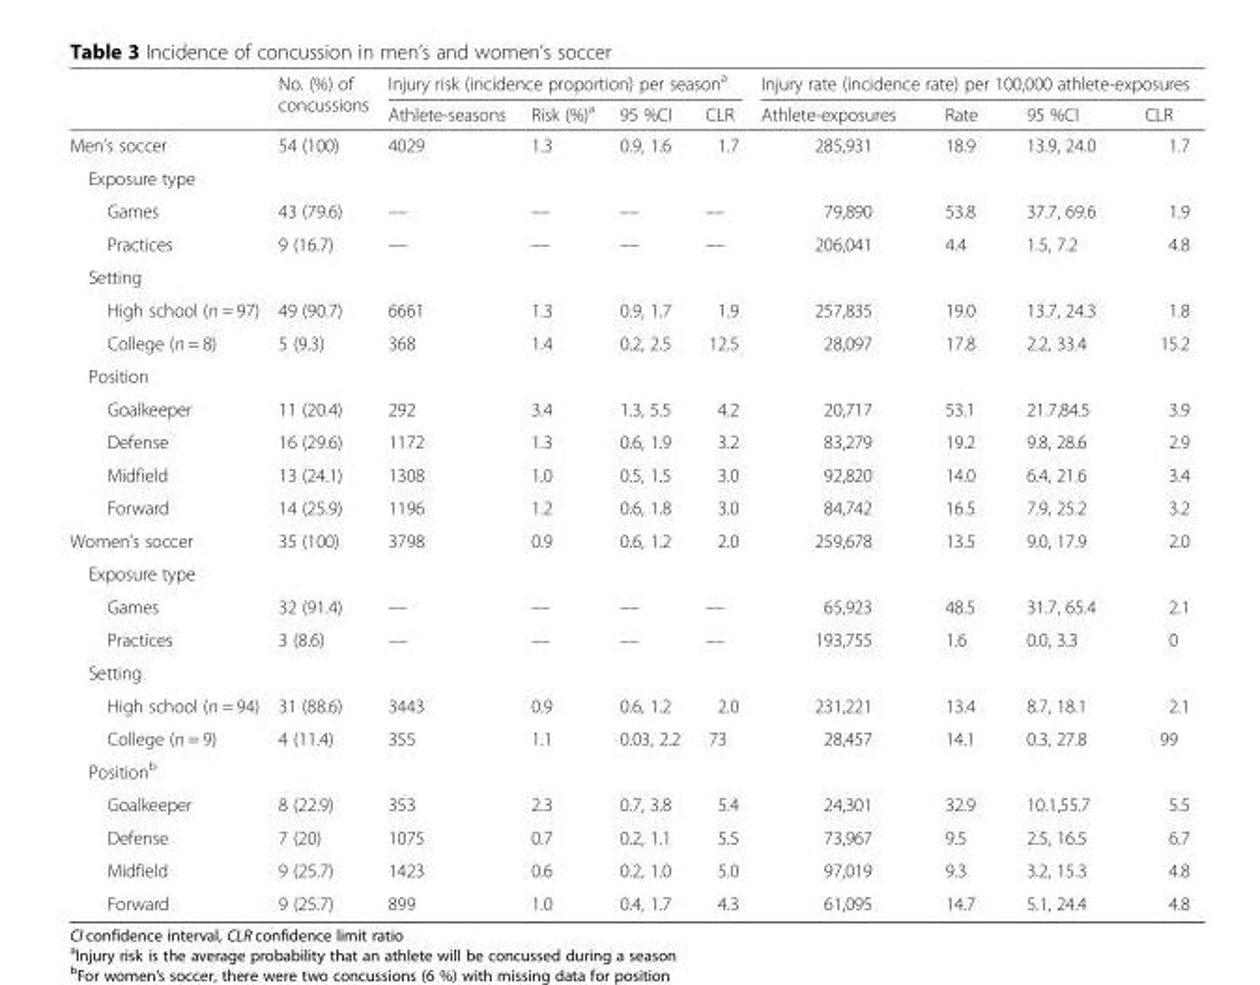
<table><thead><tr><td rowspan="2"></td><td rowspan="2">No. (%) of concussions</td><td colspan="4">Injury risk (incidence proportion) per season<sup>a</sup></td><td colspan="4">Injury rate (incidence rate) per 100,000 athlete-exposures</td></tr><tr><td>Athlete-seasons</td><td>Risk (%)<sup>a</sup></td><td>95 %CI</td><td>CLR</td><td>Athlete-exposures</td><td>Rate</td><td>95 %CI</td><td>CLR</td></tr></thead><tbody><tr><td>Men’s soccer</td><td>54 (100)</td><td>4029</td><td>1.3</td><td>0.9, 1.6</td><td>1.7</td><td>285,931</td><td>18.9</td><td>13.9, 24.0</td><td>1.7</td></tr><tr><td colspan="10">Exposure type</td></tr><tr><td>Games</td><td>43 (79.6)</td><td>––</td><td>––</td><td>––</td><td>––</td><td>79,890</td><td>53.8</td><td>37.7, 69.6</td><td>1.9</td></tr><tr><td>Practices</td><td>9 (16.7)</td><td>––</td><td>––</td><td>––</td><td>––</td><td>206,041</td><td>4.4</td><td>1.5, 7.2</td><td>4.8</td></tr><tr><td colspan="10">Setting</td></tr><tr><td>High school (n = 97)</td><td>49 (90.7)</td><td>6661</td><td>1.3</td><td>0.9, 1.7</td><td>1.9</td><td>257,835</td><td>19.0</td><td>13.7, 24.3</td><td>1.8</td></tr><tr><td>College (n = 8)</td><td>5 (9.3)</td><td>368</td><td>1.4</td><td>0.2, 2.5</td><td>12.5</td><td>28,097</td><td>17.8</td><td>2.2, 33.4</td><td>15.2</td></tr><tr><td colspan="10">Position</td></tr><tr><td>Goalkeeper</td><td>11 (20.4)</td><td>292</td><td>3.4</td><td>1.3, 5.5</td><td>4.2</td><td>20,717</td><td>53.1</td><td>21.7,84.5</td><td>3.9</td></tr><tr><td>Defense</td><td>16 (29.6)</td><td>1172</td><td>1.3</td><td>0.6, 1.9</td><td>3.2</td><td>83,279</td><td>19.2</td><td>9.8, 28.6</td><td>2.9</td></tr><tr><td>Midfield</td><td>13 (24.1)</td><td>1308</td><td>1.0</td><td>0.5, 1.5</td><td>3.0</td><td>92,820</td><td>14.0</td><td>6.4, 21.6</td><td>3.4</td></tr><tr><td>Forward</td><td>14 (25.9)</td><td>1196</td><td>1.2</td><td>0.6, 1.8</td><td>3.0</td><td>84,742</td><td>16.5</td><td>7.9, 25.2</td><td>3.2</td></tr><tr><td>Women’s soccer</td><td>35 (100)</td><td>3798</td><td>0.9</td><td>0.6, 1.2</td><td>2.0</td><td>259,678</td><td>13.5</td><td>9.0, 17.9</td><td>2.0</td></tr><tr><td colspan="10">Exposure type</td></tr><tr><td>Games</td><td>32 (91.4)</td><td>––</td><td>––</td><td>––</td><td>––</td><td>65,923</td><td>48.5</td><td>31.7, 65.4</td><td>2.1</td></tr><tr><td>Practices</td><td>3 (8.6)</td><td>––</td><td>––</td><td>––</td><td>––</td><td>193,755</td><td>1.6</td><td>0.0, 3.3</td><td>0</td></tr><tr><td colspan="10">Setting</td></tr><tr><td>High school (n = 94)</td><td>31 (88.6)</td><td>3443</td><td>0.9</td><td>0.6, 1.2</td><td>2.0</td><td>231,221</td><td>13.4</td><td>8.7, 18.1</td><td>2.1</td></tr><tr><td>College (n = 9)</td><td>4 (11.4)</td><td>355</td><td>1.1</td><td>0.03, 2.2</td><td>73</td><td>28,457</td><td>14.1</td><td>0.3, 27.8</td><td>99</td></tr><tr><td colspan="10">Position<sup>b</sup></td></tr><tr><td>Goalkeeper</td><td>8 (22.9)</td><td>353</td><td>2.3</td><td>0.7, 3.8</td><td>5.4</td><td>24,301</td><td>32.9</td><td>10.1,55.7</td><td>5.5</td></tr><tr><td>Defense</td><td>7 (20)</td><td>1075</td><td>0.7</td><td>0.2, 1.1</td><td>5.5</td><td>73,967</td><td>9.5</td><td>2.5, 16.5</td><td>6.7</td></tr><tr><td>Midfield</td><td>9 (25.7)</td><td>1423</td><td>0.6</td><td>0.2, 1.0</td><td>5.0</td><td>97,019</td><td>9.3</td><td>3.2, 15.3</td><td>4.8</td></tr><tr><td>Forward</td><td>9 (25.7)</td><td>899</td><td>1.0</td><td>0.4, 1.7</td><td>4.3</td><td>61,095</td><td>14.7</td><td>5.1, 24.4</td><td>4.8</td></tr></tbody></table>